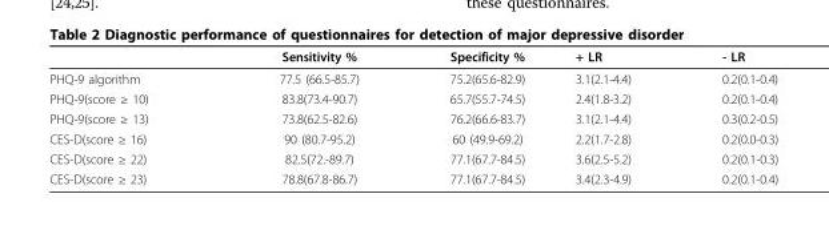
<table><thead><tr><td></td><td>Sensitivity %</td><td>Specificity %</td><td>+ LR</td><td>- LR</td></tr></thead><tbody><tr><td>PHQ-9 algorithm</td><td>77.5 (66.5-85.7)</td><td>75.2(65.6-82.9)</td><td>3.1(2.1-4.4)</td><td>0.2(0.1-0.4)</td></tr><tr><td>PHQ-9(score ≥ 10)</td><td>83.8(73.4-90.7)</td><td>65.7(55.7-74.5)</td><td>2.4(1.8-3.2)</td><td>0.2(0.1-0.4)</td></tr><tr><td>PHQ-9(score ≥ 13)</td><td>73.8(62.5-82.6)</td><td>76.2(66.6-83.7)</td><td>3.1(2.1-4.4)</td><td>0.3(0.2-0.5)</td></tr><tr><td>CES-D(score ≥ 16)</td><td>90 (80.7-95.2)</td><td>60 (49.9-69.2)</td><td>2.2(1.7-2.8)</td><td>0.2(0.0-0.3)</td></tr><tr><td>CES-D(score ≥ 22)</td><td>82.5(72.-89.7)</td><td>77.1(67.7-84.5)</td><td>3.6(2.5-5.2)</td><td>0.2(0.1-0.3)</td></tr><tr><td>CES-D(score ≥ 23)</td><td>78.8(67.8-86.7)</td><td>77.1(67.7-84.5)</td><td>3.4(2.3-4.9)</td><td>0.2(0.1-0.4)</td></tr></tbody></table>